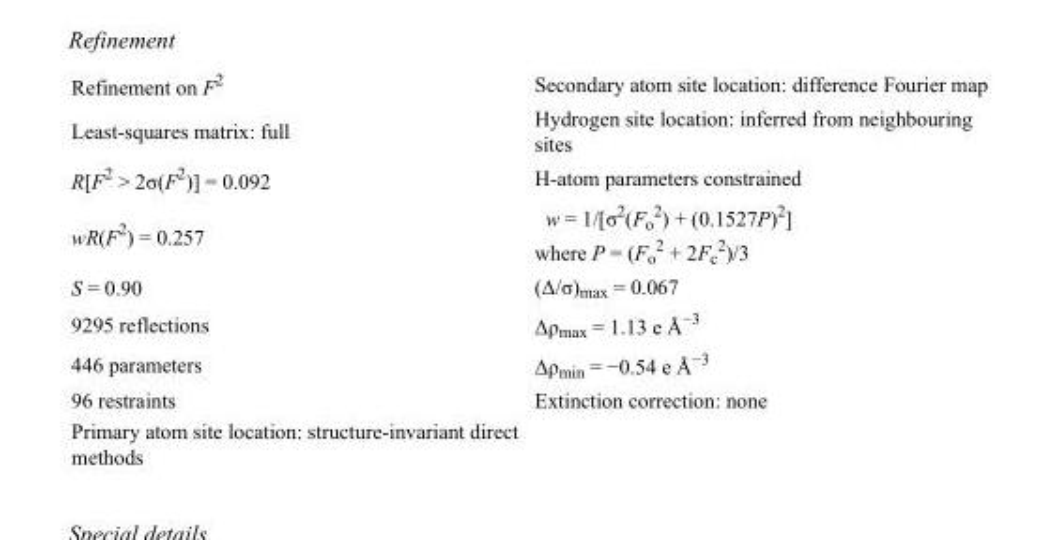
<table><tbody><tr><td>Refinement on F<sup>2</sup></td><td>Secondary atom site location: difference Fourier map</td></tr><tr><td>Least-squares matrix: full</td><td>Hydrogen site location: inferred from neighbouring sites</td></tr><tr><td>R[F<sup>2</sup> &gt; 2σ(F<sup>2</sup>)] = 0.092</td><td>H-atom parameters constrained</td></tr><tr><td>wR(F<sup>2</sup>) = 0.257</td><td>w = 1/[σ<sup>2</sup>(F<sub>o</sub> <sup>2</sup>) + (0.1527P)<sup>2</sup>] where P = (F<sub>o</sub> <sup>2</sup> + 2F<sub>c</sub> <sup>2</sup>)/3</td></tr><tr><td>S = 0.90</td><td>(Δ/σ)<sub>max</sub> = 0.067</td></tr><tr><td>9295 reflections</td><td>Δρ<sub>max</sub> = 1.13 e Å<sup>−3</sup></td></tr><tr><td>446 parameters</td><td>Δρ<sub>min</sub> = −0.54 e Å<sup>−3</sup></td></tr><tr><td>96 restraints</td><td>Extinction correction: none</td></tr><tr><td>Primary atom site location: structure-invariant direct methods</td><td></td></tr></tbody></table>